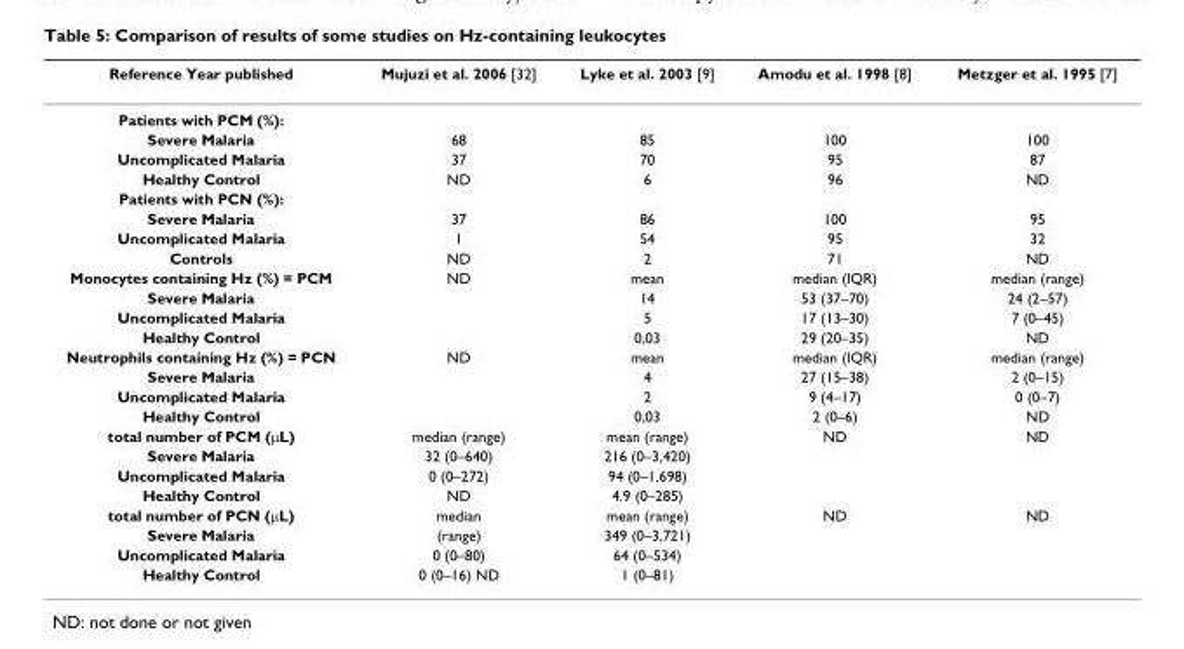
<table><thead><tr><td>Reference Year published</td><td>Mujuzi et al. 2006 [32]</td><td>Lyke et al. 2003 [9]</td><td>Amodu et al. 1998 [8]</td><td>Metzger et al. 1995 [7]</td></tr></thead><tbody><tr><td colspan="5">Patients with PCM (%):</td></tr><tr><td>Severe Malaria</td><td>68</td><td>85</td><td>100</td><td>100</td></tr><tr><td>Uncomplicated Malaria</td><td>37</td><td>70</td><td>95</td><td>87</td></tr><tr><td>Healthy Control</td><td>ND</td><td>6</td><td>96</td><td>ND</td></tr><tr><td colspan="5">Patients with PCN (%):</td></tr><tr><td>Severe Malaria</td><td>37</td><td>86</td><td>100</td><td>95</td></tr><tr><td>Uncomplicated Malaria</td><td>1</td><td>54</td><td>95</td><td>32</td></tr><tr><td>Controls</td><td>ND</td><td>2</td><td>71</td><td>ND</td></tr><tr><td>Monocytes containing Hz (%) = PCM</td><td>ND</td><td>mean</td><td>median (IQR)</td><td>median (range)</td></tr><tr><td>Severe Malaria</td><td></td><td>14</td><td>53 (37–70)</td><td>24 (2–57)</td></tr><tr><td>Uncomplicated Malaria</td><td></td><td>5</td><td>17 (13–30)</td><td>7 (0–45)</td></tr><tr><td>Healthy Control</td><td></td><td>0,03</td><td>29 (20–35)</td><td>ND</td></tr><tr><td>Neutrophils containing Hz (%) = PCN</td><td>ND</td><td>mean</td><td>median (IQR)</td><td>median (range)</td></tr><tr><td>Severe Malaria</td><td></td><td>4</td><td>27 (15–38)</td><td>2 (0–15)</td></tr><tr><td>Uncomplicated Malaria</td><td></td><td>2</td><td>9 (4–17)</td><td>0 (0–7)</td></tr><tr><td>Healthy Control</td><td></td><td>0,03</td><td>2 (0–6)</td><td>ND</td></tr><tr><td>total number of PCM (μL)</td><td>median (range)</td><td>mean (range)</td><td>ND</td><td>ND</td></tr><tr><td>Severe Malaria</td><td>32 (0–640)</td><td>216 (0–3,420)</td><td></td><td></td></tr><tr><td>Uncomplicated Malaria</td><td>0 (0–272)</td><td>94 (0–1,698)</td><td></td><td></td></tr><tr><td>Healthy Control</td><td>ND</td><td>4.9 (0–285)</td><td></td><td></td></tr><tr><td>total number of PCN (μL)</td><td>median</td><td>mean (range)</td><td>ND</td><td>ND</td></tr><tr><td>Severe Malaria</td><td>(range)</td><td>349 (0–3,721)</td><td></td><td></td></tr><tr><td>Uncomplicated Malaria</td><td>0 (0–80)</td><td>64 (0–534)</td><td></td><td></td></tr><tr><td>Healthy Control</td><td>0 (0–16) ND</td><td>1 (0–81)</td><td></td><td></td></tr></tbody></table>